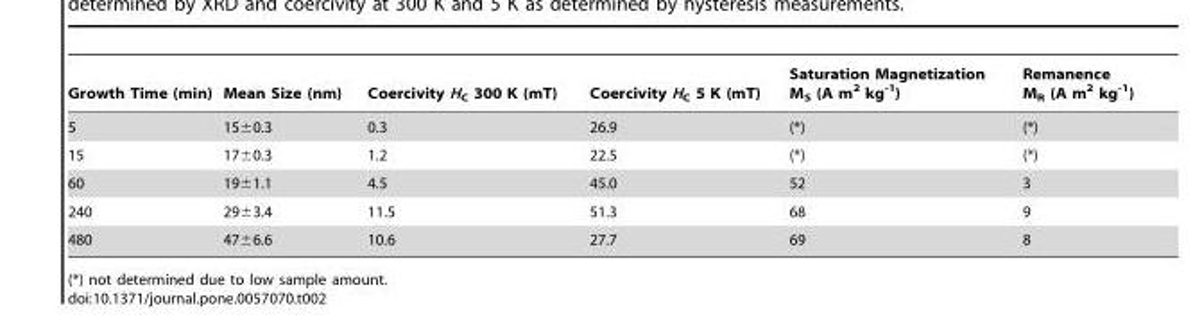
<table><thead><tr><td>Growth Time (min)</td><td>Mean Size (nm)</td><td>Coercivity H<sub>C</sub> 300 K (mT)</td><td>Coercivity H<sub>C</sub> 5 K (mT)</td><td>Saturation Magnetization M<sub>S</sub> (A m<sup>2</sup> kg<sup>-1</sup>)</td><td>Remanence M<sub>R</sub> (A m<sup>2</sup> kg<sup>-1</sup>)</td></tr></thead><tbody><tr><td>5</td><td>15±0.3</td><td>0.3</td><td>26.9</td><td>(*)</td><td>(*)</td></tr><tr><td>15</td><td>17±0.3</td><td>1.2</td><td>22.5</td><td>(*)</td><td>(*)</td></tr><tr><td>60</td><td>19±1.1</td><td>4.5</td><td>45.0</td><td>52</td><td>3</td></tr><tr><td>240</td><td>29±3.4</td><td>11.5</td><td>51.3</td><td>68</td><td>9</td></tr><tr><td>480</td><td>47±6.6</td><td>10.6</td><td>27.7</td><td>69</td><td>8</td></tr></tbody></table>